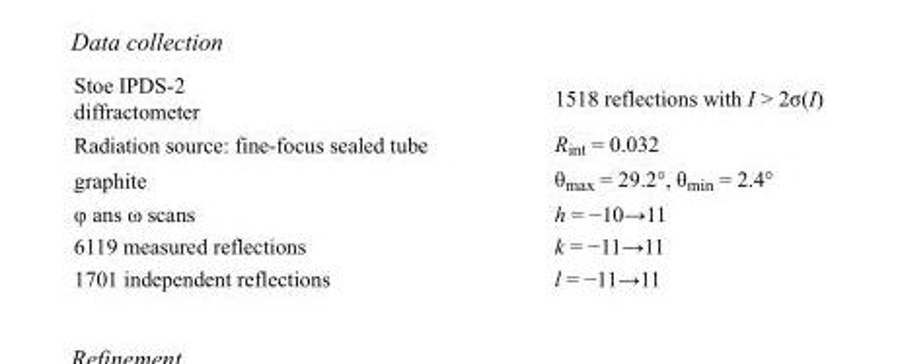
<table><tbody><tr><td>Stoe IPDS-2 diffractometer</td><td>1518 reflections with I &gt; 2σ(I)</td></tr><tr><td>Radiation source: fine-focus sealed tube</td><td>R<sub>int</sub> = 0.032</td></tr><tr><td>graphite</td><td>θ<sub>max</sub> = 29.2°, θ<sub>min</sub> = 2.4°</td></tr><tr><td>φ ans ω scans</td><td>h = −10→11</td></tr><tr><td>6119 measured reflections</td><td>k = −11→11</td></tr><tr><td>1701 independent reflections</td><td>l = −11→11</td></tr></tbody></table>